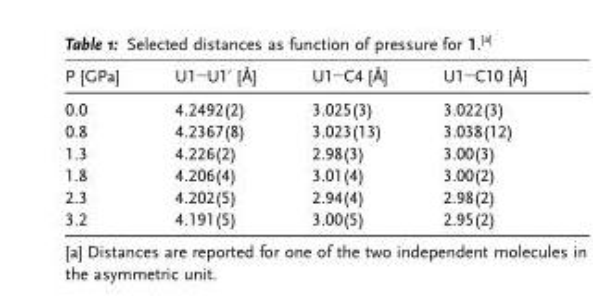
<table><thead><tr><td>P [GPa]</td><td>U1=U1’ [Å]</td><td>U1=C4 [Å]</td><td>U1=C10 [Å]</td></tr></thead><tbody><tr><td>0.0</td><td>4.2492(2)</td><td>3.025(3)</td><td>3.022(3)</td></tr><tr><td>0.8</td><td>4.2367(8)</td><td>3.023(13)</td><td>3.038(12)</td></tr><tr><td>1.3</td><td>4.226(2)</td><td>2.98(3)</td><td>3.00(3)</td></tr><tr><td>1.8</td><td>4.206(4)</td><td>3.01(4)</td><td>3.00(2)</td></tr><tr><td>2.3</td><td>4.202(5)</td><td>2.94(4)</td><td>2.98(2)</td></tr><tr><td>3.2</td><td>4.191(5)</td><td>3.00(5)</td><td>2.95(2)</td></tr></tbody></table>